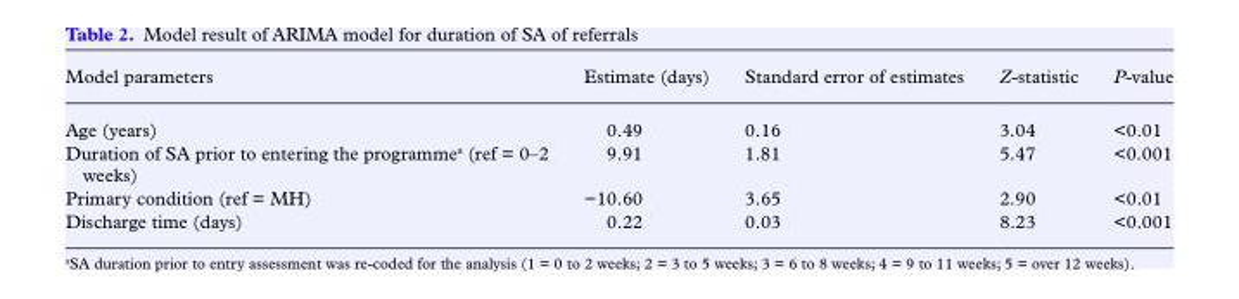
<table><thead><tr><td>Model parameters</td><td>Estimate (days)</td><td>Standard error of estimates</td><td>Z-statistic</td><td>P-value</td></tr></thead><tbody><tr><td>Age (years)</td><td>0.49</td><td>0.16</td><td>3.04</td><td>&lt;0.01</td></tr><tr><td>Duration of SA prior to entering the programme<sup>a</sup> (ref = 0–2 weeks)</td><td>9.91</td><td>1.81</td><td>5.47</td><td>&lt;0.001</td></tr><tr><td>Primary condition (ref = MH)</td><td>−10.60</td><td>3.65</td><td>2.90</td><td>&lt;0.01</td></tr><tr><td>Discharge time (days)</td><td>0.22</td><td>0.03</td><td>8.23</td><td>&lt;0.001</td></tr></tbody></table>